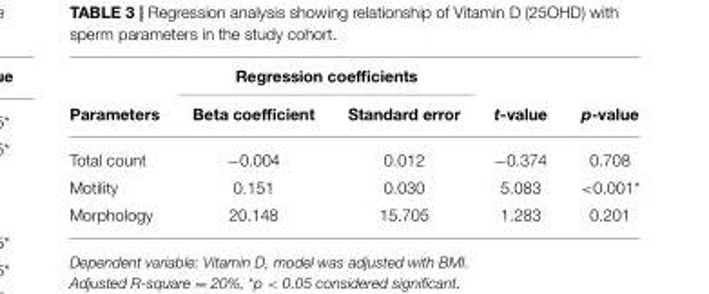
<table><thead><tr><td rowspan="2">Parameters</td><td colspan="2">Regression coefficients</td><td rowspan="2">t-value</td><td rowspan="2">p-value</td></tr><tr><td>Beta coefficient</td><td>Standard error</td></tr></thead><tbody><tr><td>Total count</td><td>−0.004</td><td>0.012</td><td>−0.374</td><td>0.708</td></tr><tr><td>Motility</td><td>0.151</td><td>0.030</td><td>5.083</td><td>&lt;0.001*</td></tr><tr><td>Morphology</td><td>20.148</td><td>15.705</td><td>1.283</td><td>0.201</td></tr></tbody></table>